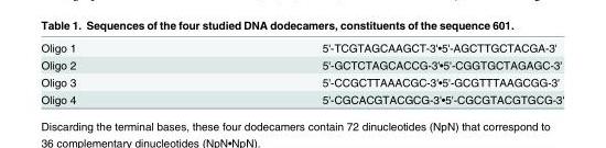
<table><tbody><tr><td>Oligo 1</td><td>5&#x27;-TCGTAGCAAGCT-3&#x27;•5&#x27;-AGCTTGCTACGA-3&#x27;</td></tr><tr><td>Oligo 2</td><td>5&#x27;-GCTCTAGCACCG-3&#x27;•5&#x27;-CGGTGCTAGAGC-3&#x27;</td></tr><tr><td>Oligo 3</td><td>5&#x27;-CCGCTTAAACGC-3&#x27;•5&#x27;-GCGTTTAAGCGG-3&#x27;</td></tr><tr><td>Oligo 4</td><td>5&#x27;-CGCACGTACGCG-3&#x27;•5&#x27;-CGCGTACGTGCG-3&#x27;</td></tr></tbody></table>